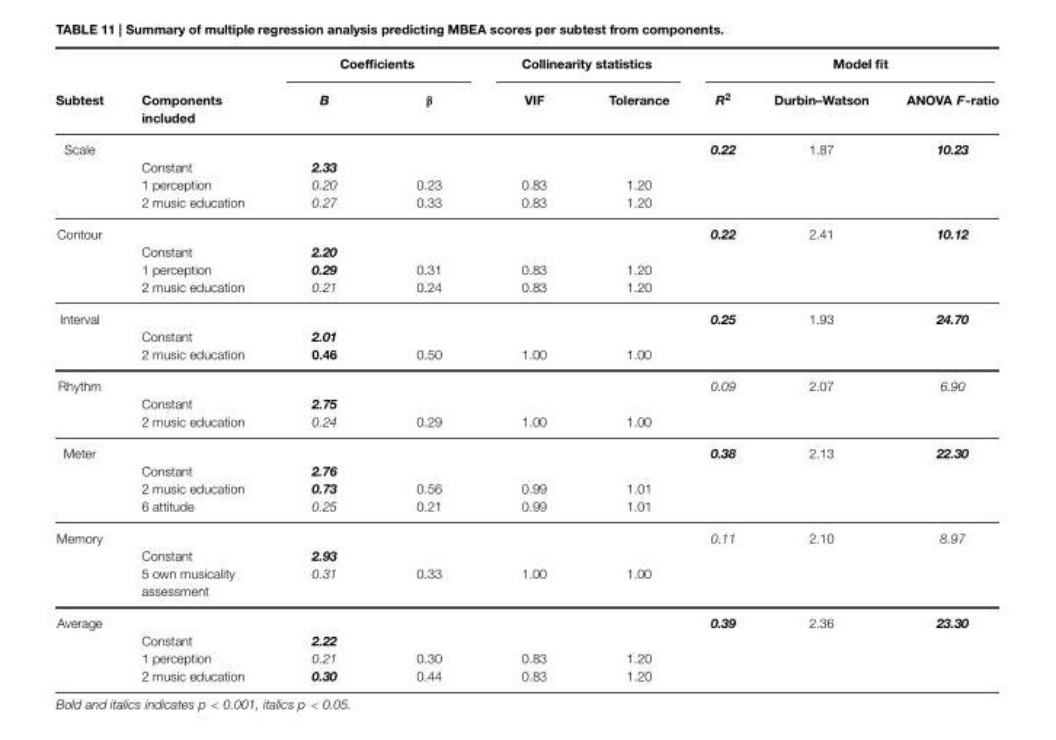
<table><thead><tr><td rowspan="2">Subtest</td><td rowspan="2">Components included</td><td colspan="2">Coefficients</td><td colspan="2">Collinearity statistics</td><td colspan="3">Model fit</td></tr><tr><td>B</td><td>β</td><td>VIF</td><td>Tolerance</td><td>R<sup>2</sup></td><td>Durbin–Watson</td><td>ANOVA F-ratio</td></tr></thead><tbody><tr><td>Scale</td><td>Constant 1 perception 2 music education</td><td>2.33 0.20 0.27</td><td>0.23 0.33</td><td>0.83 0.83</td><td>1.20 1.20</td><td>0.22</td><td>1.87</td><td>10.23</td></tr><tr><td>Contour</td><td>Constant 1 perception 2 music education</td><td>2.20 0.29 0.21</td><td>0.31 0.24</td><td>0.83 0.83</td><td>1.20 1.20</td><td>0.22</td><td>2.41</td><td>10.12</td></tr><tr><td>Interval</td><td>Constant 2 music education</td><td>2.01 0.46</td><td>0.50</td><td>1.00</td><td>1.00</td><td>0.25</td><td>1.93</td><td>24.70</td></tr><tr><td>Rhythm</td><td>Constant 2 music education</td><td>2.75 0.24</td><td>0.29</td><td>1.00</td><td>1.00</td><td>0.09</td><td>2.07</td><td>6.90</td></tr><tr><td>Meter</td><td>Constant 2 music education 6 attitude</td><td>2.76 0.73 0.25</td><td>0.56 0.21</td><td>0.99 0.99</td><td>1.01 1.01</td><td>0.38</td><td>2.13</td><td>22.30</td></tr><tr><td>Memory</td><td>Constant 5 own musicality assessment</td><td>2.93 0.31</td><td>0.33</td><td>1.00</td><td>1.00</td><td>0.11</td><td>2.10</td><td>8.97</td></tr><tr><td>Average</td><td>Constant 1 perception 2 music education</td><td>2.22 0.21 0.30</td><td>0.30 0.44</td><td>0.83 0.83</td><td>1.20 1.20</td><td>0.39</td><td>2.36</td><td>23.30</td></tr></tbody></table>